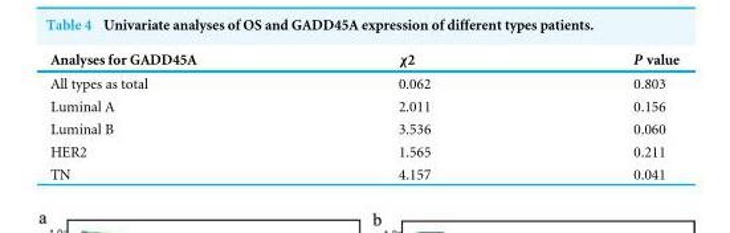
<table><thead><tr><td>Analyses for GADD45A</td><td>χ2</td><td>P value</td></tr></thead><tbody><tr><td>All types as total</td><td>0.062</td><td>0.803</td></tr><tr><td>Luminal A</td><td>2.011</td><td>0.156</td></tr><tr><td>Luminal B</td><td>3.536</td><td>0.060</td></tr><tr><td>HER2</td><td>1.565</td><td>0.211</td></tr><tr><td>TN</td><td>4.157</td><td>0.041</td></tr></tbody></table>